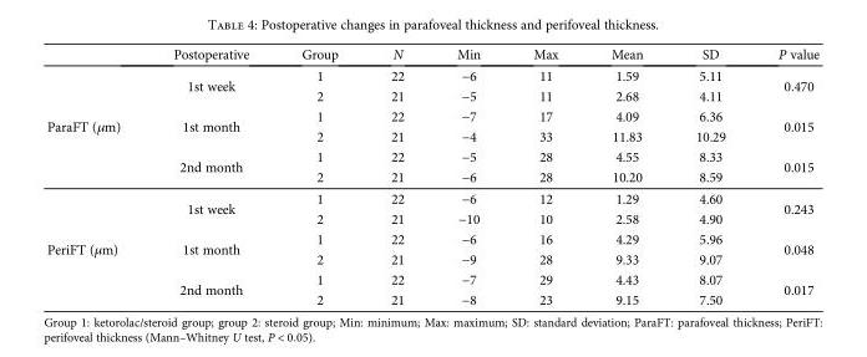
<table><thead><tr><td></td><td>Postoperative</td><td>Group</td><td>N</td><td>Min</td><td>Max</td><td>Mean</td><td>SD</td><td>P value</td></tr></thead><tbody><tr><td rowspan="6">ParaFT (μm)</td><td rowspan="2">1st week</td><td>1</td><td>22</td><td>−6</td><td>11</td><td>1.59</td><td>5.11</td><td rowspan="2">0.470</td></tr><tr><td>2</td><td>21</td><td>−5</td><td>11</td><td>2.68</td><td>4.11</td></tr><tr><td rowspan="2">1st month</td><td>1</td><td>22</td><td>−7</td><td>17</td><td>4.09</td><td>6.36</td><td rowspan="2">0.015</td></tr><tr><td>2</td><td>21</td><td>−4</td><td>33</td><td>11.83</td><td>10.29</td></tr><tr><td rowspan="2">2nd month</td><td>1</td><td>22</td><td>−5</td><td>28</td><td>4.55</td><td>8.33</td><td rowspan="2">0.015</td></tr><tr><td>2</td><td>21</td><td>−6</td><td>28</td><td>10.20</td><td>8.59</td></tr><tr><td rowspan="6">PeriFT (μm)</td><td rowspan="2">1st week</td><td>1</td><td>22</td><td>−6</td><td>12</td><td>1.29</td><td>4.60</td><td rowspan="2">0.243</td></tr><tr><td>2</td><td>21</td><td>−10</td><td>10</td><td>2.58</td><td>4.90</td></tr><tr><td rowspan="2">1st month</td><td>1</td><td>22</td><td>−6</td><td>16</td><td>4.29</td><td>5.96</td><td rowspan="2">0.048</td></tr><tr><td>2</td><td>21</td><td>−9</td><td>28</td><td>9.33</td><td>9.07</td></tr><tr><td rowspan="2">2nd month</td><td>1</td><td>22</td><td>−7</td><td>29</td><td>4.43</td><td>8.07</td><td rowspan="2">0.017</td></tr><tr><td>2</td><td>21</td><td>−8</td><td>23</td><td>9.15</td><td>7.50</td></tr></tbody></table>